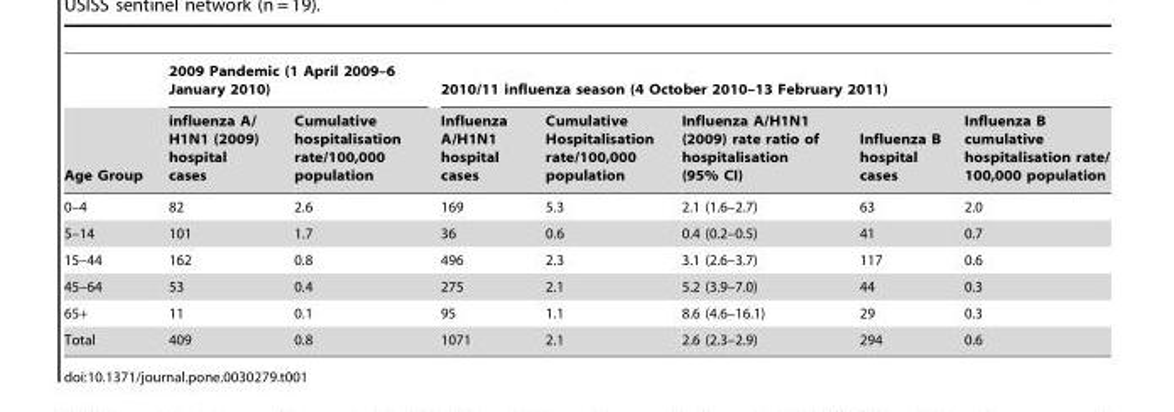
<table><thead><tr><td rowspan="2">Age Group</td><td colspan="2">2009 Pandemic (1 April 2009–6 January 2010)</td><td colspan="5">2010/11 influenza season (4 October 2010–13 February 2011)</td></tr><tr><td>influenza A/ H1N1 (2009) hospital cases</td><td>Cumulative hospitalisation rate/100,000 population</td><td>Influenza A/H1N1 hospital cases</td><td>Cumulative Hospitalisation rate/100,000 population</td><td>Influenza A/H1N1 (2009) rate ratio of hospitalisation (95% CI)</td><td>Influenza B hospital cases</td><td>Influenza B cumulative hospitalisation rate/ 100,000 population</td></tr></thead><tbody><tr><td>0–4</td><td>82</td><td>2.6</td><td>169</td><td>5.3</td><td>2.1 (1.6–2.7)</td><td>63</td><td>2.0</td></tr><tr><td>5–14</td><td>101</td><td>1.7</td><td>36</td><td>0.6</td><td>0.4 (0.2–0.5)</td><td>41</td><td>0.7</td></tr><tr><td>15–44</td><td>162</td><td>0.8</td><td>496</td><td>2.3</td><td>3.1 (2.6–3.7)</td><td>117</td><td>0.6</td></tr><tr><td>45–64</td><td>53</td><td>0.4</td><td>275</td><td>2.1</td><td>5.2 (3.9–7.0)</td><td>44</td><td>0.3</td></tr><tr><td>65+</td><td>11</td><td>0.1</td><td>95</td><td>1.1</td><td>8.6 (4.6–16.1)</td><td>29</td><td>0.3</td></tr><tr><td>Total</td><td>409</td><td>0.8</td><td>1071</td><td>2.1</td><td>2.6 (2.3–2.9)</td><td>294</td><td>0.6</td></tr></tbody></table>